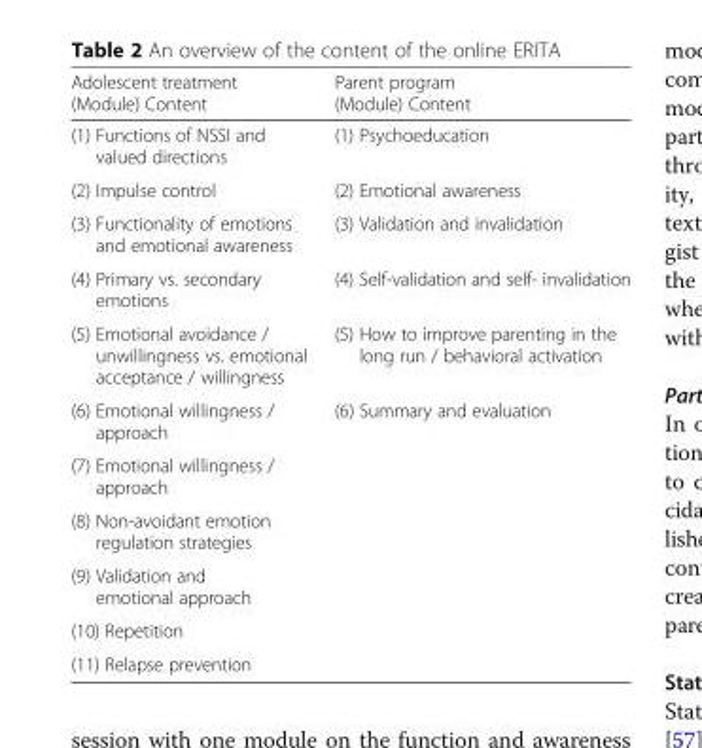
<table><thead><tr><td>Adolescent treatment (Module) Content</td><td>Parent program (Module) Content</td></tr></thead><tbody><tr><td>(1) Functions of NSSI and valued directions</td><td>(1) Psychoeducation</td></tr><tr><td>(2) Impulse control</td><td>(2) Emotional awareness</td></tr><tr><td>(3) Functionality of emotions and emotional awareness</td><td>(3) Validation and invalidation</td></tr><tr><td>(4) Primary vs. secondary emotions</td><td>(4) Self-validation and self- invalidation</td></tr><tr><td>(5) Emotional avoidance / unwillingness vs. emotional acceptance / willingness</td><td>(5) How to improve parenting in the long run / behavioral activation</td></tr><tr><td>(6) Emotional willingness / approach</td><td>(6) Summary and evaluation</td></tr><tr><td colspan="2">(7) Emotional willingness / approach</td></tr><tr><td colspan="2">(8) Non-avoidant emotion regulation strategies</td></tr><tr><td colspan="2">(9) Validation and emotional approach</td></tr><tr><td colspan="2">(10) Repetition</td></tr><tr><td>(11) Relapse prevention</td><td></td></tr></tbody></table>